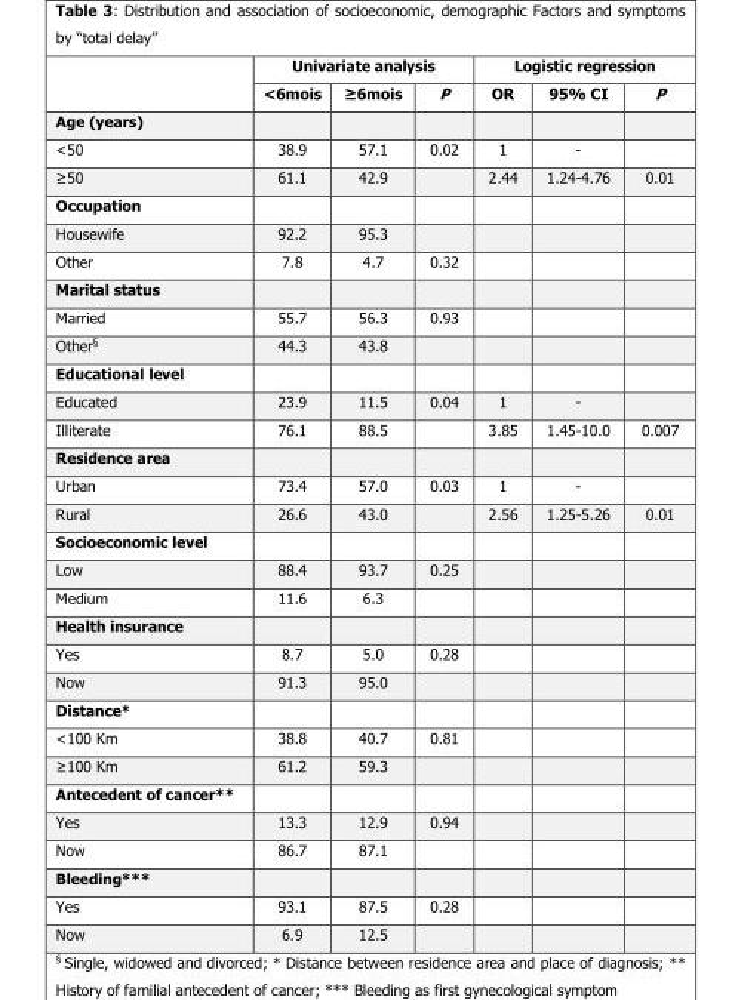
<table><thead><tr><td rowspan="2"></td><td colspan="3">Univariate analysis</td><td colspan="3">Logistic regression</td></tr><tr><td>&lt;6mois</td><td>≥6mois</td><td>P</td><td>OR</td><td>95% CI</td><td>P</td></tr></thead><tbody><tr><td colspan="7">Age (years)</td></tr><tr><td>&lt;50</td><td>38.9</td><td>57.1</td><td>0.02</td><td>1</td><td>-</td><td></td></tr><tr><td>≥50</td><td>61.1</td><td>42.9</td><td></td><td>2.44</td><td>1.24-4.76</td><td>0.01</td></tr><tr><td colspan="7">Occupation</td></tr><tr><td>Housewife</td><td>92.2</td><td>95.3</td><td></td><td></td><td></td><td></td></tr><tr><td>Other</td><td>7.8</td><td>4.7</td><td>0.32</td><td></td><td></td><td></td></tr><tr><td colspan="7">Marital status</td></tr><tr><td>Married</td><td>55.7</td><td>56.3</td><td>0.93</td><td></td><td></td><td></td></tr><tr><td>Other§</td><td>44.3</td><td>43.8</td><td></td><td></td><td></td><td></td></tr><tr><td colspan="7">Educational level</td></tr><tr><td>Educated</td><td>23.9</td><td>11.5</td><td>0.04</td><td>1</td><td>-</td><td></td></tr><tr><td>Illiterate</td><td>76.1</td><td>88.5</td><td></td><td>3.85</td><td>1.45-10.0</td><td>0.007</td></tr><tr><td colspan="7">Residence area</td></tr><tr><td>Urban</td><td>73.4</td><td>57.0</td><td>0.03</td><td>1</td><td>-</td><td></td></tr><tr><td>Rural</td><td>26.6</td><td>43.0</td><td></td><td>2.56</td><td>1.25-5.26</td><td>0.01</td></tr><tr><td colspan="7">Socioeconomic level</td></tr><tr><td>Low</td><td>88.4</td><td>93.7</td><td>0.25</td><td></td><td></td><td></td></tr><tr><td>Medium</td><td>11.6</td><td>6.3</td><td></td><td></td><td></td><td></td></tr><tr><td colspan="7">Health insurance</td></tr><tr><td>Yes</td><td>8.7</td><td>5.0</td><td>0.28</td><td></td><td></td><td></td></tr><tr><td>Now</td><td>91.3</td><td>95.0</td><td></td><td></td><td></td><td></td></tr><tr><td colspan="7">Distance*</td></tr><tr><td>&lt;100 Km</td><td>38.8</td><td>40.7</td><td>0.81</td><td></td><td></td><td></td></tr><tr><td>≥100 Km</td><td>61.2</td><td>59.3</td><td></td><td></td><td></td><td></td></tr><tr><td colspan="7">Antecedent of cancer**</td></tr><tr><td>Yes</td><td>13.3</td><td>12.9</td><td>0.94</td><td></td><td></td><td></td></tr><tr><td>Now</td><td>86.7</td><td>87.1</td><td></td><td></td><td></td><td></td></tr><tr><td colspan="7">Bleeding***</td></tr><tr><td>Yes</td><td>93.1</td><td>87.5</td><td>0.28</td><td></td><td></td><td></td></tr><tr><td>Now</td><td>6.9</td><td>12.5</td><td></td><td></td><td></td><td></td></tr></tbody></table>